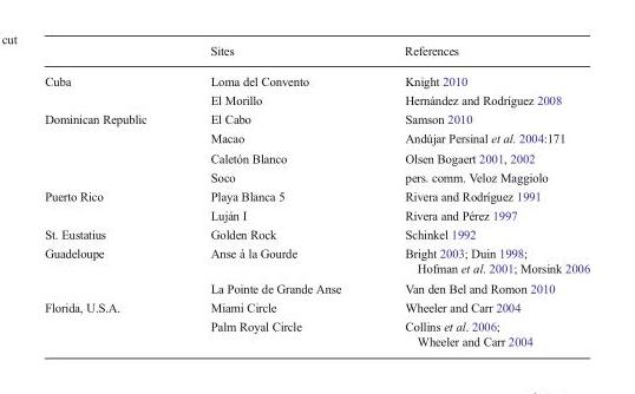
<table><thead><tr><td></td><td>Sites</td><td>References</td></tr></thead><tbody><tr><td rowspan="2">Cuba</td><td>Loma del Convento</td><td>Knight 2010</td></tr><tr><td>El Morillo</td><td>Hernández and Rodríguez 2008</td></tr><tr><td rowspan="4">Dominican Republic</td><td>El Cabo</td><td>Samson 2010</td></tr><tr><td>Macao</td><td>Andújar Persinal et al. 2004:171</td></tr><tr><td>Caletón Blanco</td><td>Olsen Bogaert 2001, 2002</td></tr><tr><td>Soco</td><td>pers. comm. Veloz Maggiolo</td></tr><tr><td rowspan="2">Puerto Rico</td><td>Playa Blanca 5</td><td>Rivera and Rodríguez 1991</td></tr><tr><td>Luján I</td><td>Rivera and Pérez 1997</td></tr><tr><td>St. Eustatius</td><td>Golden Rock</td><td>Schinkel 1992</td></tr><tr><td rowspan="2">Guadeloupe</td><td>Anse á la Gourde</td><td>Bright 2003; Duin 1998; Hofman et al. 2001; Morsink 2006</td></tr><tr><td>La Pointe de Grande Anse</td><td>Van den Bel and Romon 2010</td></tr><tr><td rowspan="2">Florida, U.S.A.</td><td>Miami Circle</td><td>Wheeler and Carr 2004</td></tr><tr><td>Palm Royal Circle</td><td>Collins et al. 2006; Wheeler and Carr 2004</td></tr></tbody></table>